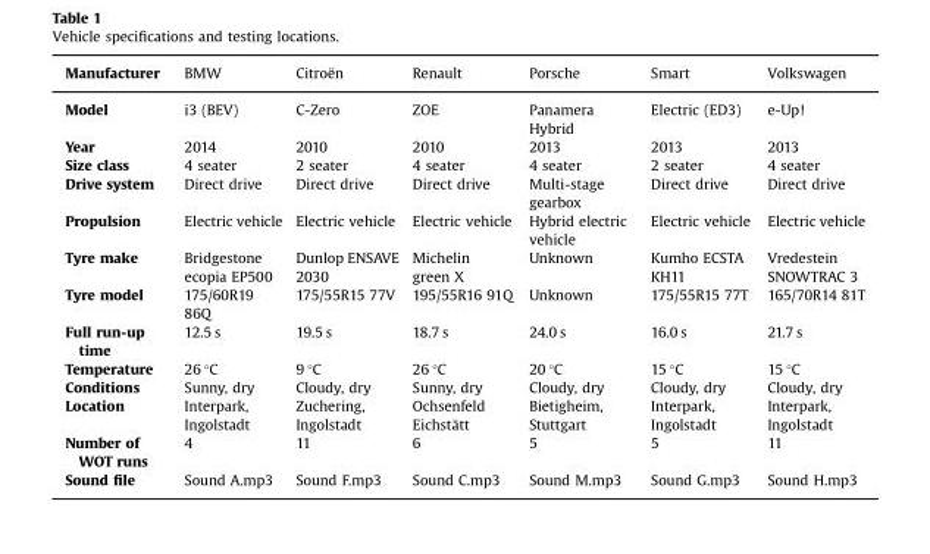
<table><thead><tr><td>Manufacturer</td><td>BMW</td><td>Citroën</td><td>Renault</td><td>Porsche</td><td>Smart</td><td>Volkswagen</td></tr></thead><tbody><tr><td>Model</td><td>i3 (BEV)</td><td>C-Zero</td><td>ZOE</td><td>Panamera Hybrid</td><td>Electric (ED3)</td><td>e-Up!</td></tr><tr><td>Year</td><td>2014</td><td>2010</td><td>2010</td><td>2013</td><td>2013</td><td>2013</td></tr><tr><td>Size class</td><td>4 seater</td><td>2 seater</td><td>4 seater</td><td>4 seater</td><td>2 seater</td><td>4 seater</td></tr><tr><td>Drive system</td><td>Direct drive</td><td>Direct drive</td><td>Direct drive</td><td>Multi-stage gearbox</td><td>Direct drive</td><td>Direct drive</td></tr><tr><td>Propulsion</td><td>Electric vehicle</td><td>Electric vehicle</td><td>Electric vehicle</td><td>Hybrid electric vehicle</td><td>Electric vehicle</td><td>Electric vehicle</td></tr><tr><td>Tyre make</td><td>Bridgestone ecopia EP500</td><td>Dunlop ENSAVE 2030</td><td>Michelin green X</td><td>Unknown</td><td>Kumho ECSTA KH11</td><td>Vredestein SNOWTRAC 3</td></tr><tr><td>Tyre model</td><td>175/60R19 86Q</td><td>175/55R15 77V</td><td>195/55R16 91Q</td><td>Unknown</td><td>175/55R15 77T</td><td>165/70R14 81T</td></tr><tr><td>Full run-up time</td><td>12.5 s</td><td>19.5 s</td><td>18.7 s</td><td>24.0 s</td><td>16.0 s</td><td>21.7 s</td></tr><tr><td>Temperature</td><td>26 °C</td><td>9 °C</td><td>26 °C</td><td>20 °C</td><td>15 °C</td><td>15 °C</td></tr><tr><td>Conditions</td><td>Sunny, dry</td><td>Cloudy, dry</td><td>Sunny, dry</td><td>Cloudy, dry</td><td>Cloudy, dry</td><td>Cloudy, dry</td></tr><tr><td>Location</td><td>Interpark, Ingolstadt</td><td>Zuchering, Ingolstadt</td><td>Ochsenfeld Eichstätt</td><td>Bietigheim, Stuttgart</td><td>Interpark, Ingolstadt</td><td>Interpark, Ingolstadt</td></tr><tr><td>Number of WOT runs</td><td>4</td><td>11</td><td>6</td><td>5</td><td>5</td><td>11</td></tr><tr><td>Sound file</td><td>Sound A.mp3</td><td>Sound F.mp3</td><td>Sound C.mp3</td><td>Sound M.mp3</td><td>Sound G.mp3</td><td>Sound H.mp3</td></tr></tbody></table>